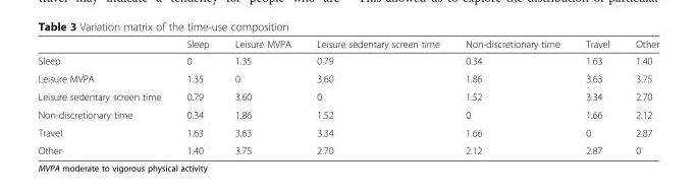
<table><thead><tr><td></td><td>Sleep</td><td>Leisure MVPA</td><td>Leisure sedentary screen time</td><td>Non-discretionary time</td><td>Travel</td><td>Other</td></tr></thead><tbody><tr><td>Sleep</td><td>0</td><td>1.35</td><td>0.79</td><td>0.34</td><td>1.63</td><td>1.40</td></tr><tr><td>Leisure MVPA</td><td>1.35</td><td>0</td><td>3.60</td><td>1.86</td><td>3.63</td><td>3.75</td></tr><tr><td>Leisure sedentary screen time</td><td>0.79</td><td>3.60</td><td>0</td><td>1.52</td><td>3.34</td><td>2.70</td></tr><tr><td>Non-discretionary time</td><td>0.34</td><td>1.86</td><td>1.52</td><td>0</td><td>1.66</td><td>2.12</td></tr><tr><td>Travel</td><td>1.63</td><td>3.63</td><td>3.34</td><td>1.66</td><td>0</td><td>2.87</td></tr><tr><td>Other</td><td>1.40</td><td>3.75</td><td>2.70</td><td>2.12</td><td>2.87</td><td>0</td></tr></tbody></table>